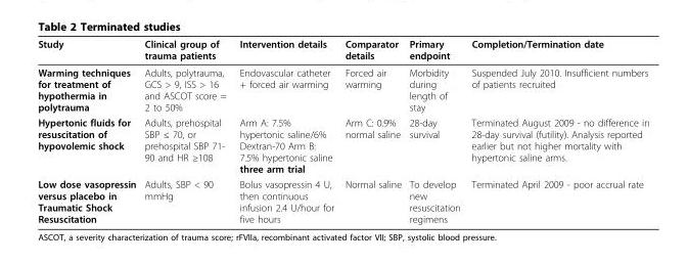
<table><thead><tr><td>Study</td><td>Clinical group of trauma patients</td><td>Intervention details</td><td>Comparator details</td><td>Primary endpoint</td><td>Completion/Termination date</td></tr></thead><tbody><tr><td>Warming techniques for treatment of hypothermia in polytrauma</td><td>Adults, polytrauma, GCS &gt; 9, ISS &gt; 16 and ASCOT score = 2 to 50%</td><td>Endovascular catheter + forced air warming</td><td>Forced air warming</td><td>Morbidity during length of stay</td><td>Suspended July 2010. Insufficient numbers of patients recruited</td></tr><tr><td>Hypertonic fluids for resuscitation of hypovolemic shock</td><td>Adults, prehospital SBP ≤ 70, or prehospital SBP 71- 90 and HR ≥108</td><td>Arm A: 7.5% hypertonic saline/6% Dextran-70 Arm B: 7.5% hypertonic saline three arm trial</td><td>Arm C: 0.9% normal saline</td><td>28-day survival</td><td>Terminated August 2009 - no difference in 28-day survival (futility). Analysis reported earlier but not higher mortality with hypertonic saline arms.</td></tr><tr><td>Low dose vasopressin versus placebo in Traumatic Shock Resuscitation</td><td>Adults, SBP &lt; 90 mmHg</td><td>Bolus vasopressin 4 U, then continuous infusion 2.4 U/hour for five hours</td><td>Normal saline</td><td>To develop new resuscitation regimens</td><td>Terminated April 2009 - poor accrual rate</td></tr></tbody></table>